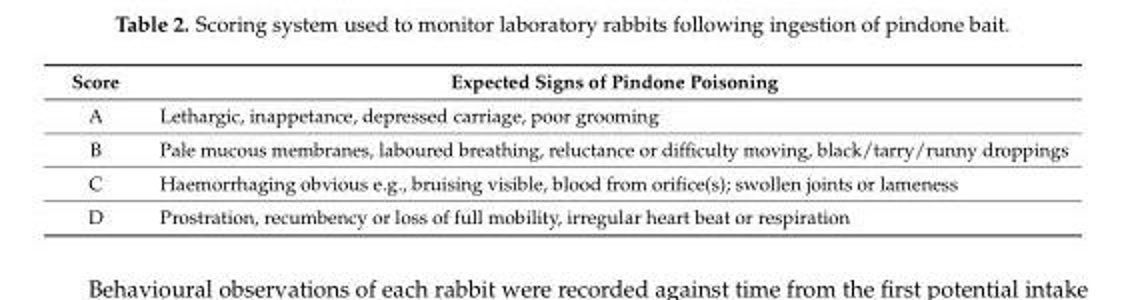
<table><thead><tr><td>Score</td><td>Expected Signs of Pindone Poisoning</td></tr></thead><tbody><tr><td>A</td><td>Lethargic, inappetance, depressed carriage, poor grooming</td></tr><tr><td>B</td><td>Pale mucous membranes, laboured breathing, reluctance or difficulty moving, black/tarry/runny droppings</td></tr><tr><td>C</td><td>Haemorrhaging obvious e.g., bruising visible, blood from orifice(s); swollen joints or lameness</td></tr><tr><td>D</td><td>Prostration, recumbency or loss of full mobility, irregular heart beat or respiration</td></tr></tbody></table>